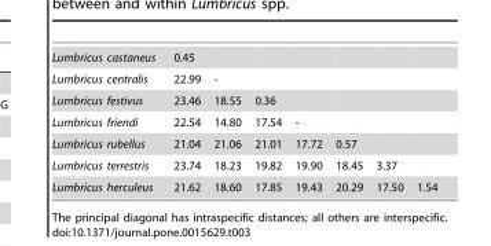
<table><tbody><tr><td>Lumbricus castaneus</td><td>0.45</td><td></td><td></td><td></td><td></td><td></td><td></td></tr><tr><td>Lumbricus centralis</td><td>22.99</td><td>-</td><td></td><td></td><td></td><td></td><td></td></tr><tr><td>Lumbricus festivus</td><td>23.46</td><td>18.55</td><td>0.36</td><td></td><td></td><td></td><td></td></tr><tr><td>Lumbricus friendi</td><td>22.54</td><td>14.80</td><td>17.54</td><td>-</td><td></td><td></td><td></td></tr><tr><td>Lumbricus rubellus</td><td>21.04</td><td>21.06</td><td>21.01</td><td>17.72</td><td>0.57</td><td></td><td></td></tr><tr><td>Lumbricus terrestris</td><td>23.74</td><td>18.23</td><td>19.82</td><td>19.90</td><td>18.45</td><td>3.37</td><td></td></tr><tr><td>Lumbricus herculeus</td><td>21.62</td><td>18.60</td><td>17.85</td><td>19.43</td><td>20.29</td><td>17.50</td><td>1.54</td></tr></tbody></table>